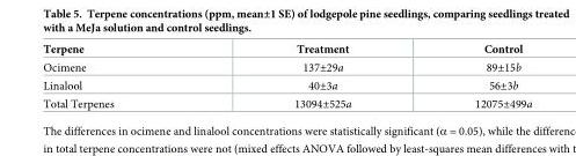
<table><thead><tr><td>Terpene</td><td>Treatment</td><td>Control</td></tr></thead><tbody><tr><td>Ocimene</td><td>137±29a</td><td>89±15b</td></tr><tr><td>Linalool</td><td>40±3a</td><td>56±3b</td></tr><tr><td>Total Terpenes</td><td>13094±525a</td><td>12075±499a</td></tr></tbody></table>